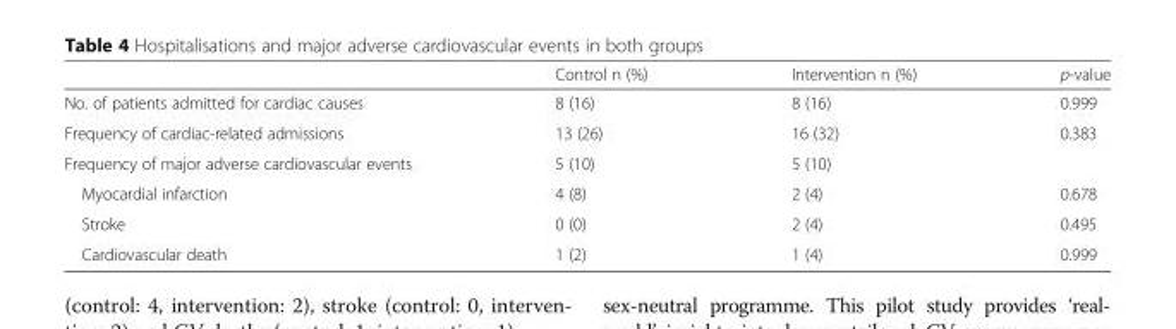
<table><thead><tr><td></td><td>Control n (%)</td><td>Intervention n (%)</td><td>p-value</td></tr></thead><tbody><tr><td>No. of patients admitted for cardiac causes</td><td>8 (16)</td><td>8 (16)</td><td>0.999</td></tr><tr><td>Frequency of cardiac-related admissions</td><td>13 (26)</td><td>16 (32)</td><td>0.383</td></tr><tr><td>Frequency of major adverse cardiovascular events</td><td>5 (10)</td><td>5 (10)</td><td></td></tr><tr><td>Myocardial infarction</td><td>4 (8)</td><td>2 (4)</td><td>0.678</td></tr><tr><td>Stroke</td><td>0 (0)</td><td>2 (4)</td><td>0.495</td></tr><tr><td>Cardiovascular death</td><td>1 (2)</td><td>1 (4)</td><td>0.999</td></tr></tbody></table>